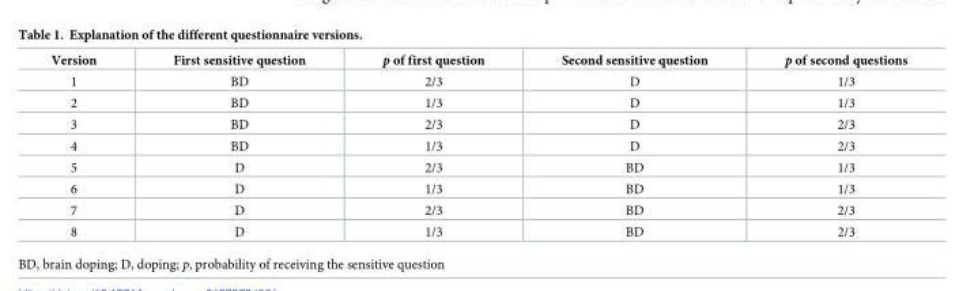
<table><thead><tr><td>Version</td><td>First sensitive question</td><td>p of first question</td><td>Second sensitive question</td><td>p of second questions</td></tr></thead><tbody><tr><td>1</td><td>BD</td><td>2/3</td><td>D</td><td>1/3</td></tr><tr><td>2</td><td>BD</td><td>1/3</td><td>D</td><td>1/3</td></tr><tr><td>3</td><td>BD</td><td>2/3</td><td>D</td><td>2/3</td></tr><tr><td>4</td><td>BD</td><td>1/3</td><td>D</td><td>2/3</td></tr><tr><td>5</td><td>D</td><td>2/3</td><td>BD</td><td>1/3</td></tr><tr><td>6</td><td>D</td><td>1/3</td><td>BD</td><td>1/3</td></tr><tr><td>7</td><td>D</td><td>2/3</td><td>BD</td><td>2/3</td></tr><tr><td>8</td><td>D</td><td>1/3</td><td>BD</td><td>2/3</td></tr></tbody></table>